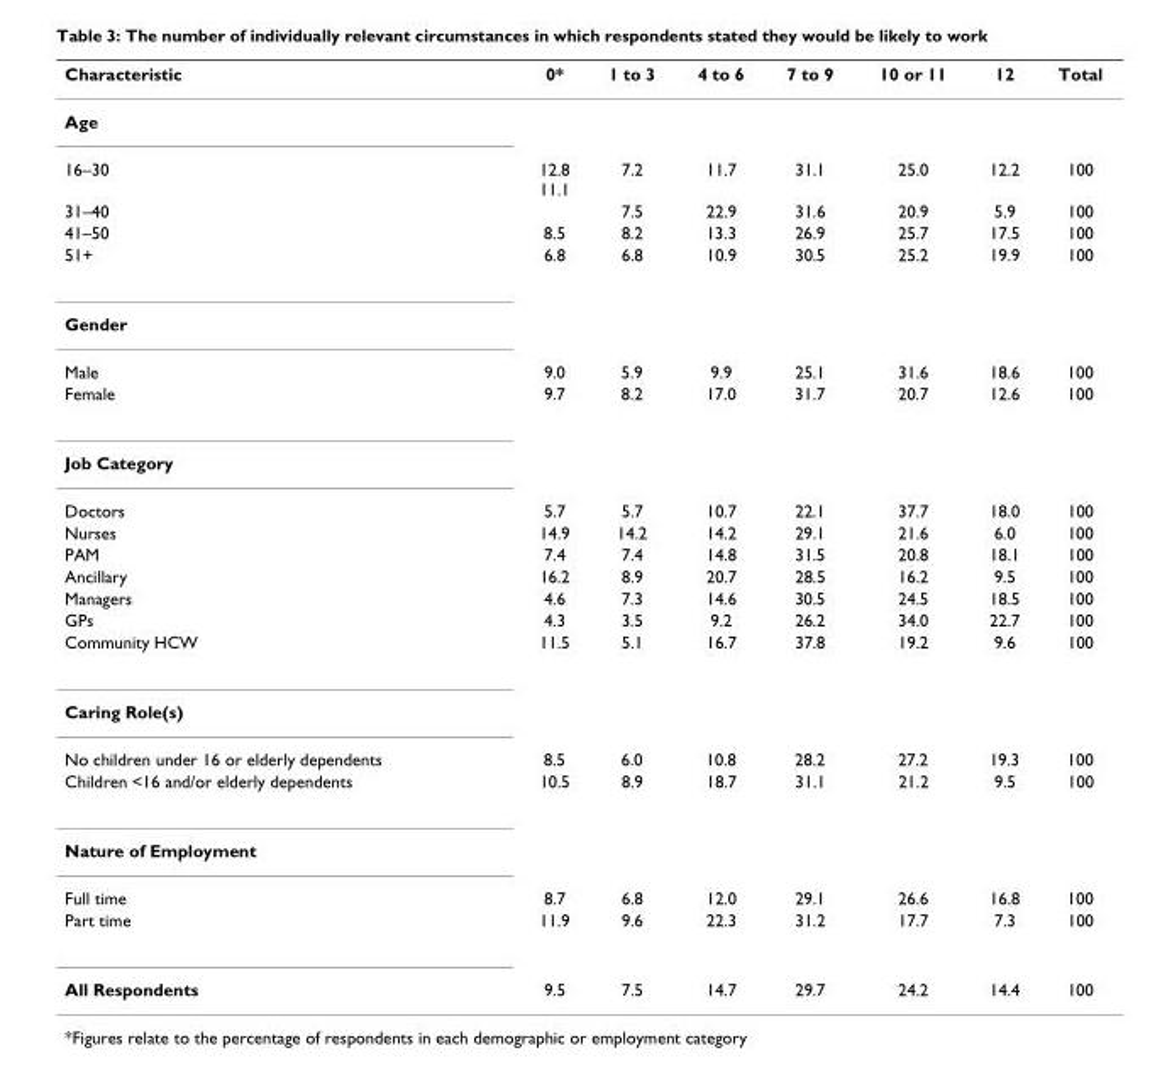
<table><thead><tr><td>Characteristic</td><td>0*</td><td>1 to 3</td><td>4 to 6</td><td>7 to 9</td><td>10 or 11</td><td>12</td><td>Total</td></tr></thead><tbody><tr><td colspan="8">Age</td></tr><tr><td>16–30</td><td>12.8 11.1</td><td>7.2</td><td>11.7</td><td>31.1</td><td>25.0</td><td>12.2</td><td>100</td></tr><tr><td>31–40</td><td></td><td>7.5</td><td>22.9</td><td>31.6</td><td>20.9</td><td>5.9</td><td>100</td></tr><tr><td>41–50</td><td>8.5</td><td>8.2</td><td>13.3</td><td>26.9</td><td>25.7</td><td>17.5</td><td>100</td></tr><tr><td>51+</td><td>6.8</td><td>6.8</td><td>10.9</td><td>30.5</td><td>25.2</td><td>19.9</td><td>100</td></tr><tr><td colspan="8">Gender</td></tr><tr><td>Male</td><td>9.0</td><td>5.9</td><td>9.9</td><td>25.1</td><td>31.6</td><td>18.6</td><td>100</td></tr><tr><td>Female</td><td>9.7</td><td>8.2</td><td>17.0</td><td>31.7</td><td>20.7</td><td>12.6</td><td>100</td></tr><tr><td colspan="8">Job Category</td></tr><tr><td>Doctors</td><td>5.7</td><td>5.7</td><td>10.7</td><td>22.1</td><td>37.7</td><td>18.0</td><td>100</td></tr><tr><td>Nurses</td><td>14.9</td><td>14.2</td><td>14.2</td><td>29.1</td><td>21.6</td><td>6.0</td><td>100</td></tr><tr><td>PAM</td><td>7.4</td><td>7.4</td><td>14.8</td><td>31.5</td><td>20.8</td><td>18.1</td><td>100</td></tr><tr><td>Ancillary</td><td>16.2</td><td>8.9</td><td>20.7</td><td>28.5</td><td>16.2</td><td>9.5</td><td>100</td></tr><tr><td>Managers</td><td>4.6</td><td>7.3</td><td>14.6</td><td>30.5</td><td>24.5</td><td>18.5</td><td>100</td></tr><tr><td>GPs</td><td>4.3</td><td>3.5</td><td>9.2</td><td>26.2</td><td>34.0</td><td>22.7</td><td>100</td></tr><tr><td>Community HCW</td><td>11.5</td><td>5.1</td><td>16.7</td><td>37.8</td><td>19.2</td><td>9.6</td><td>100</td></tr><tr><td colspan="8">Caring Role(s)</td></tr><tr><td>No children under 16 or elderly dependents</td><td>8.5</td><td>6.0</td><td>10.8</td><td>28.2</td><td>27.2</td><td>19.3</td><td>100</td></tr><tr><td>Children &lt;16 and/or elderly dependents</td><td>10.5</td><td>8.9</td><td>18.7</td><td>31.1</td><td>21.2</td><td>9.5</td><td>100</td></tr><tr><td colspan="8">Nature of Employment</td></tr><tr><td>Full time</td><td>8.7</td><td>6.8</td><td>12.0</td><td>29.1</td><td>26.6</td><td>16.8</td><td>100</td></tr><tr><td>Part time</td><td>11.9</td><td>9.6</td><td>22.3</td><td>31.2</td><td>17.7</td><td>7.3</td><td>100</td></tr><tr><td>All Respondents</td><td>9.5</td><td>7.5</td><td>14.7</td><td>29.7</td><td>24.2</td><td>14.4</td><td>100</td></tr></tbody></table>